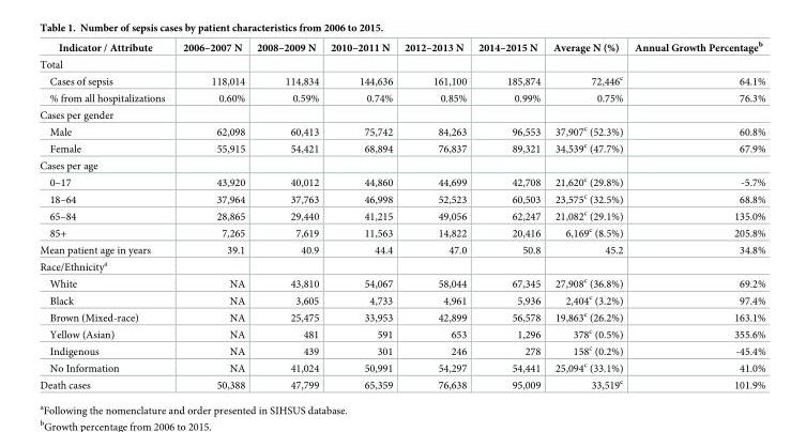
<table><thead><tr><td>Indicator / Attribute</td><td>2006–2007 N</td><td>2008–2009 N</td><td>2010–2011 N</td><td>2012–2013 N</td><td>2014–2015 N</td><td>Average N (%)</td><td>Annual Growth Percentage<sup>b</sup></td></tr></thead><tbody><tr><td colspan="8">Total</td></tr><tr><td>Cases of sepsis</td><td>118,014</td><td>114,834</td><td>144,636</td><td>161,100</td><td>185,874</td><td>72,446<sup>c</sup></td><td>64.1%</td></tr><tr><td>% from all hospitalizations</td><td>0.60%</td><td>0.59%</td><td>0.74%</td><td>0.85%</td><td>0.99%</td><td>0.75%</td><td>76.3%</td></tr><tr><td colspan="8">Cases per gender</td></tr><tr><td>Male</td><td>62,098</td><td>60,413</td><td>75,742</td><td>84,263</td><td>96,553</td><td>37,907<sup>c</sup> (52.3%)</td><td>60.8%</td></tr><tr><td>Female</td><td>55,915</td><td>54,421</td><td>68,894</td><td>76,837</td><td>89,321</td><td>34,539<sup>c</sup> (47.7%)</td><td>67.9%</td></tr><tr><td colspan="8">Cases per age</td></tr><tr><td>0–17</td><td>43,920</td><td>40,012</td><td>44,860</td><td>44,699</td><td>42,708</td><td>21,620<sup>c</sup> (29.8%)</td><td>-5.7%</td></tr><tr><td>18–64</td><td>37,964</td><td>37,763</td><td>46,998</td><td>52,523</td><td>60,503</td><td>23,575<sup>c</sup> (32.5%)</td><td>68.8%</td></tr><tr><td>65–84</td><td>28,865</td><td>29,440</td><td>41,215</td><td>49,056</td><td>62,247</td><td>21,082<sup>c</sup> (29.1%)</td><td>135.0%</td></tr><tr><td>85+</td><td>7,265</td><td>7,619</td><td>11,563</td><td>14,822</td><td>20,416</td><td>6,169<sup>c</sup> (8.5%)</td><td>205.8%</td></tr><tr><td>Mean patient age in years</td><td>39.1</td><td>40.9</td><td>44.4</td><td>47.0</td><td>50.8</td><td>45.2</td><td>34.8%</td></tr><tr><td colspan="8">Race/Ethnicity<sup>a</sup></td></tr><tr><td>White</td><td>NA</td><td>43,810</td><td>54,067</td><td>58,044</td><td>67,345</td><td>27,908<sup>c</sup> (36.8%)</td><td>69.2%</td></tr><tr><td>Black</td><td>NA</td><td>3,605</td><td>4,733</td><td>4,961</td><td>5,936</td><td>2,404<sup>c</sup> (3.2%)</td><td>97.4%</td></tr><tr><td>Brown (Mixed-race)</td><td>NA</td><td>25,475</td><td>33,953</td><td>42,899</td><td>56,578</td><td>19,863<sup>c</sup> (26.2%)</td><td>163.1%</td></tr><tr><td>Yellow (Asian)</td><td>NA</td><td>481</td><td>591</td><td>653</td><td>1,296</td><td>378<sup>c</sup> (0.5%)</td><td>355.6%</td></tr><tr><td>Indigenous</td><td>NA</td><td>439</td><td>301</td><td>246</td><td>278</td><td>158<sup>c</sup> (0.2%)</td><td>-45.4%</td></tr><tr><td>No Information</td><td>NA</td><td>41,024</td><td>50,991</td><td>54,297</td><td>54,441</td><td>25,094<sup>c</sup> (33.1%)</td><td>41.0%</td></tr><tr><td>Death cases</td><td>50,388</td><td>47,799</td><td>65,359</td><td>76,638</td><td>95,009</td><td>33,519<sup>c</sup></td><td>101.9%</td></tr></tbody></table>